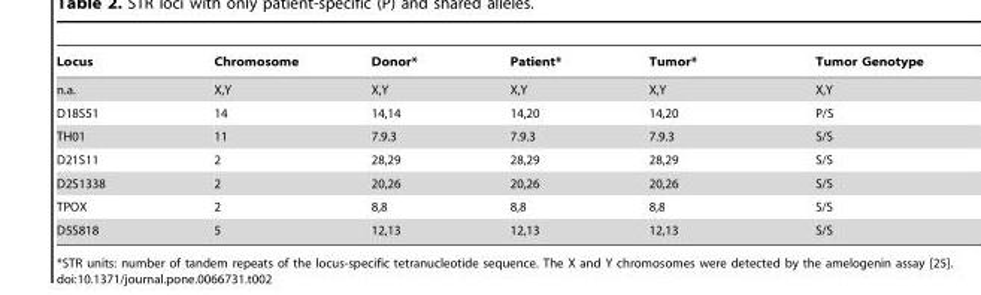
<table><thead><tr><td>Locus</td><td>Chromosome</td><td>Donor*</td><td>Patient*</td><td>Tumor*</td><td>Tumor Genotype</td></tr></thead><tbody><tr><td>n.a.</td><td>X,Y</td><td>X,Y</td><td>X,Y</td><td>X,Y</td><td>X,Y</td></tr><tr><td>D18S51</td><td>14</td><td>14,14</td><td>14,20</td><td>14,20</td><td>P/S</td></tr><tr><td>TH01</td><td>11</td><td>7.9.3</td><td>7.9.3</td><td>7.9.3</td><td>S/S</td></tr><tr><td>D21S11</td><td>2</td><td>28,29</td><td>28,29</td><td>28,29</td><td>S/S</td></tr><tr><td>D2S1338</td><td>2</td><td>20,26</td><td>20,26</td><td>20,26</td><td>S/S</td></tr><tr><td>TPOX</td><td>2</td><td>8,8</td><td>8,8</td><td>8,8</td><td>S/S</td></tr><tr><td>D5S818</td><td>5</td><td>12,13</td><td>12,13</td><td>12,13</td><td>S/S</td></tr></tbody></table>